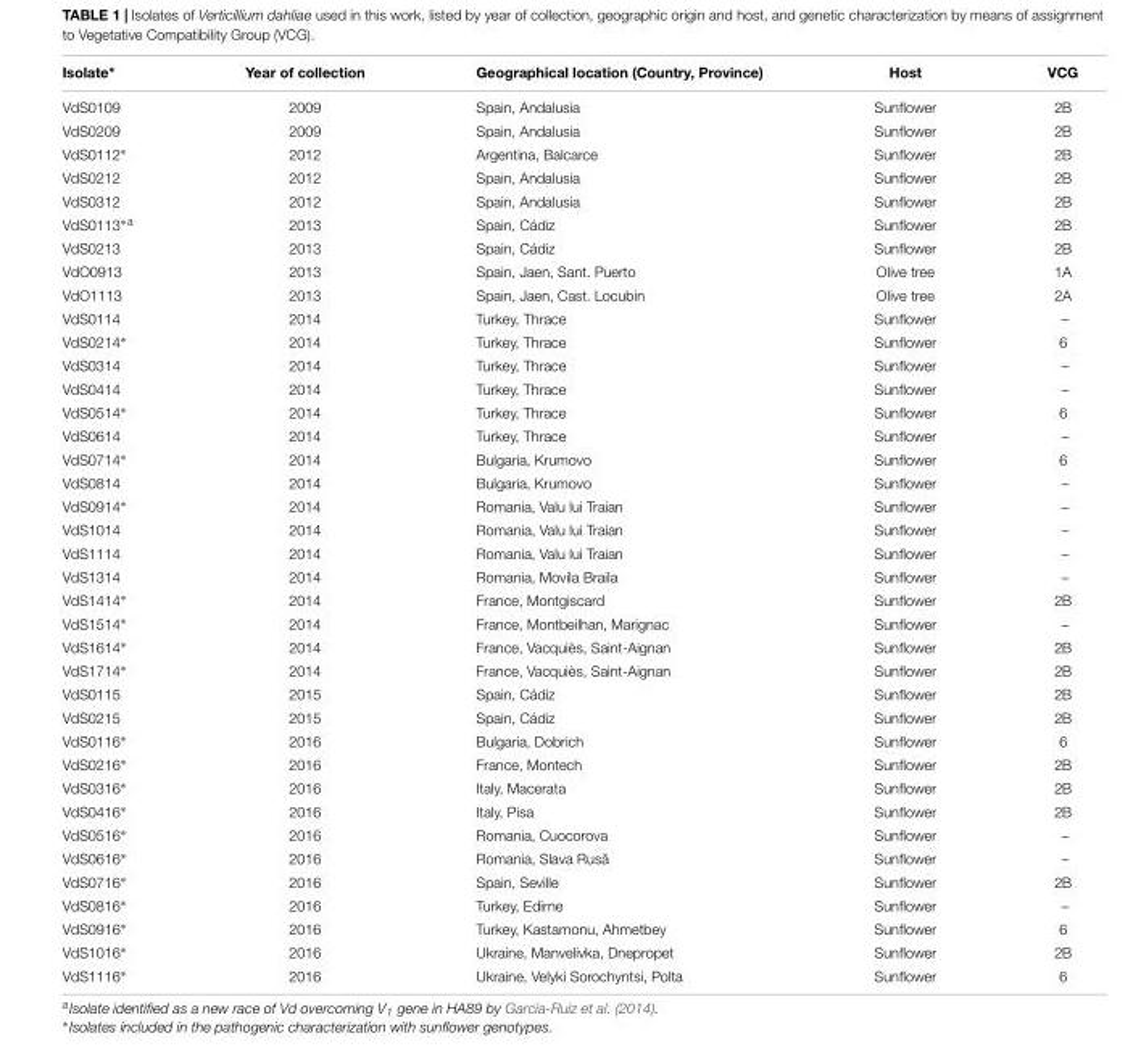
<table><thead><tr><td>Isolate∗</td><td>Year of collection</td><td>Geographical location (Country, Province)</td><td>Host</td><td>VCG</td></tr></thead><tbody><tr><td>VdS0109</td><td>2009</td><td>Spain, Andalusia</td><td>Sunflower</td><td>2B</td></tr><tr><td>VdS0209</td><td>2009</td><td>Spain, Andalusia</td><td>Sunflower</td><td>2B</td></tr><tr><td>VdS0112∗</td><td>2012</td><td>Argentina, Balcarce</td><td>Sunflower</td><td>2B</td></tr><tr><td>VdS0212</td><td>2012</td><td>Spain, Andalusia</td><td>Sunflower</td><td>2B</td></tr><tr><td>VdS0312</td><td>2012</td><td>Spain, Andalusia</td><td>Sunflower</td><td>2B</td></tr><tr><td>VdS0113<sup>∗a</sup></td><td>2013</td><td>Spain, Cádiz</td><td>Sunflower</td><td>2B</td></tr><tr><td>VdS0213</td><td>2013</td><td>Spain, Cádiz</td><td>Sunflower</td><td>2B</td></tr><tr><td>VdO0913</td><td>2013</td><td>Spain, Jaen, Sant. Puerto</td><td>Olive tree</td><td>1A</td></tr><tr><td>VdO1113</td><td>2013</td><td>Spain, Jaen, Cast. Locubin</td><td>Olive tree</td><td>2A</td></tr><tr><td>VdS0114</td><td>2014</td><td>Turkey, Thrace</td><td>Sunflower</td><td>–</td></tr><tr><td>VdS0214∗</td><td>2014</td><td>Turkey, Thrace</td><td>Sunflower</td><td>6</td></tr><tr><td>VdS0314</td><td>2014</td><td>Turkey, Thrace</td><td>Sunflower</td><td>–</td></tr><tr><td>VdS0414</td><td>2014</td><td>Turkey, Thrace</td><td>Sunflower</td><td>–</td></tr><tr><td>VdS0514∗</td><td>2014</td><td>Turkey, Thrace</td><td>Sunflower</td><td>6</td></tr><tr><td>VdS0614</td><td>2014</td><td>Turkey, Thrace</td><td>Sunflower</td><td>–</td></tr><tr><td>VdS0714∗</td><td>2014</td><td>Bulgaria, Krumovo</td><td>Sunflower</td><td>6</td></tr><tr><td>VdS0814</td><td>2014</td><td>Bulgaria, Krumovo</td><td>Sunflower</td><td>–</td></tr><tr><td>VdS0914∗</td><td>2014</td><td>Romania, Valu lui Traian</td><td>Sunflower</td><td>–</td></tr><tr><td>VdS1014</td><td>2014</td><td>Romania, Valu lui Traian</td><td>Sunflower</td><td>–</td></tr><tr><td>VdS1114</td><td>2014</td><td>Romania, Valu lui Traian</td><td>Sunflower</td><td>–</td></tr><tr><td>VdS1314</td><td>2014</td><td>Romania, Movila Braila</td><td>Sunflower</td><td>–</td></tr><tr><td>VdS1414∗</td><td>2014</td><td>France, Montgiscard</td><td>Sunflower</td><td>2B</td></tr><tr><td>VdS1514∗</td><td>2014</td><td>France, Montbeilhan, Marignac</td><td>Sunflower</td><td>–</td></tr><tr><td>VdS1614∗</td><td>2014</td><td>France, Vacquiès, Saint-Aignan</td><td>Sunflower</td><td>2B</td></tr><tr><td>VdS1714∗</td><td>2014</td><td>France, Vacquiès, Saint-Aignan</td><td>Sunflower</td><td>2B</td></tr><tr><td>VdS0115</td><td>2015</td><td>Spain, Cádiz</td><td>Sunflower</td><td>2B</td></tr><tr><td>VdS0215</td><td>2015</td><td>Spain, Cádiz</td><td>Sunflower</td><td>2B</td></tr><tr><td>VdS0116∗</td><td>2016</td><td>Bulgaria, Dobrich</td><td>Sunflower</td><td>6</td></tr><tr><td>VdS0216∗</td><td>2016</td><td>France, Montech</td><td>Sunflower</td><td>2B</td></tr><tr><td>VdS0316∗</td><td>2016</td><td>Italy, Macerata</td><td>Sunflower</td><td>2B</td></tr><tr><td>VdS0416∗</td><td>2016</td><td>Italy, Pisa</td><td>Sunflower</td><td>2B</td></tr><tr><td>VdS0516∗</td><td>2016</td><td>Romania, Cuocorova</td><td>Sunflower</td><td>–</td></tr><tr><td>VdS0616∗</td><td>2016</td><td>Romania, Slava Rus ˇa</td><td>Sunflower</td><td>–</td></tr><tr><td>VdS0716∗</td><td>2016</td><td>Spain, Seville</td><td>Sunflower</td><td>2B</td></tr><tr><td>VdS0816∗</td><td>2016</td><td>Turkey, Edirne</td><td>Sunflower</td><td>–</td></tr><tr><td>VdS0916∗</td><td>2016</td><td>Turkey, Kastamonu, Ahmetbey</td><td>Sunflower</td><td>6</td></tr><tr><td>VdS1016∗</td><td>2016</td><td>Ukraine, Manvelivka, Dnepropet</td><td>Sunflower</td><td>2B</td></tr><tr><td>VdS1116∗</td><td>2016</td><td>Ukraine, Velyki Sorochyntsi, Polta</td><td>Sunflower</td><td>6</td></tr></tbody></table>